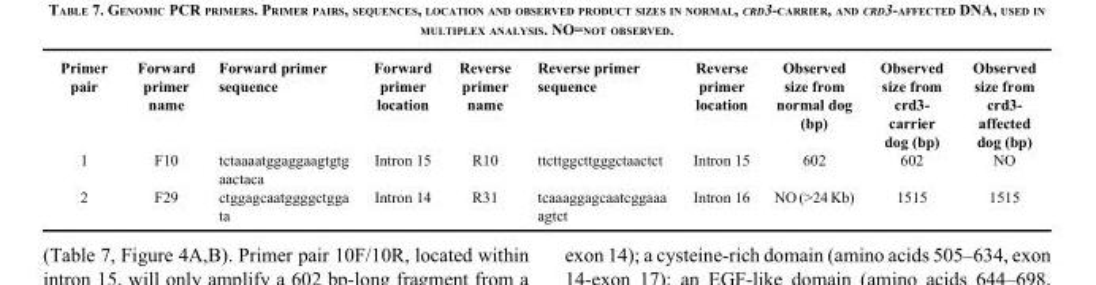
<table><thead><tr><td>Primer pair</td><td>Forward primer name</td><td>Forward primer sequence</td><td>Forward primer location</td><td>Reverse primer name</td><td>Reverse primer sequence</td><td>Reverse primer location</td><td>Observed size from normal dog (bp)</td><td>Observed size from crd3- carrier dog (bp)</td><td>Observed size from crd3- affected dog (bp)</td></tr></thead><tbody><tr><td>1</td><td>F10</td><td>tctaaaatggaggaagtgtg aactaca</td><td>Intron 15</td><td>R10</td><td>ttcttggcttgggctaactct</td><td>Intron 15</td><td>602</td><td>602</td><td>NO</td></tr><tr><td>2</td><td>F29</td><td>ctggagcaatggggctgga ta</td><td>Intron 14</td><td>R31</td><td>tcaaaggagcaatcggaaa agtct</td><td>Intron 16</td><td>NO (&gt;24 Kb)</td><td>1515</td><td>1515</td></tr></tbody></table>